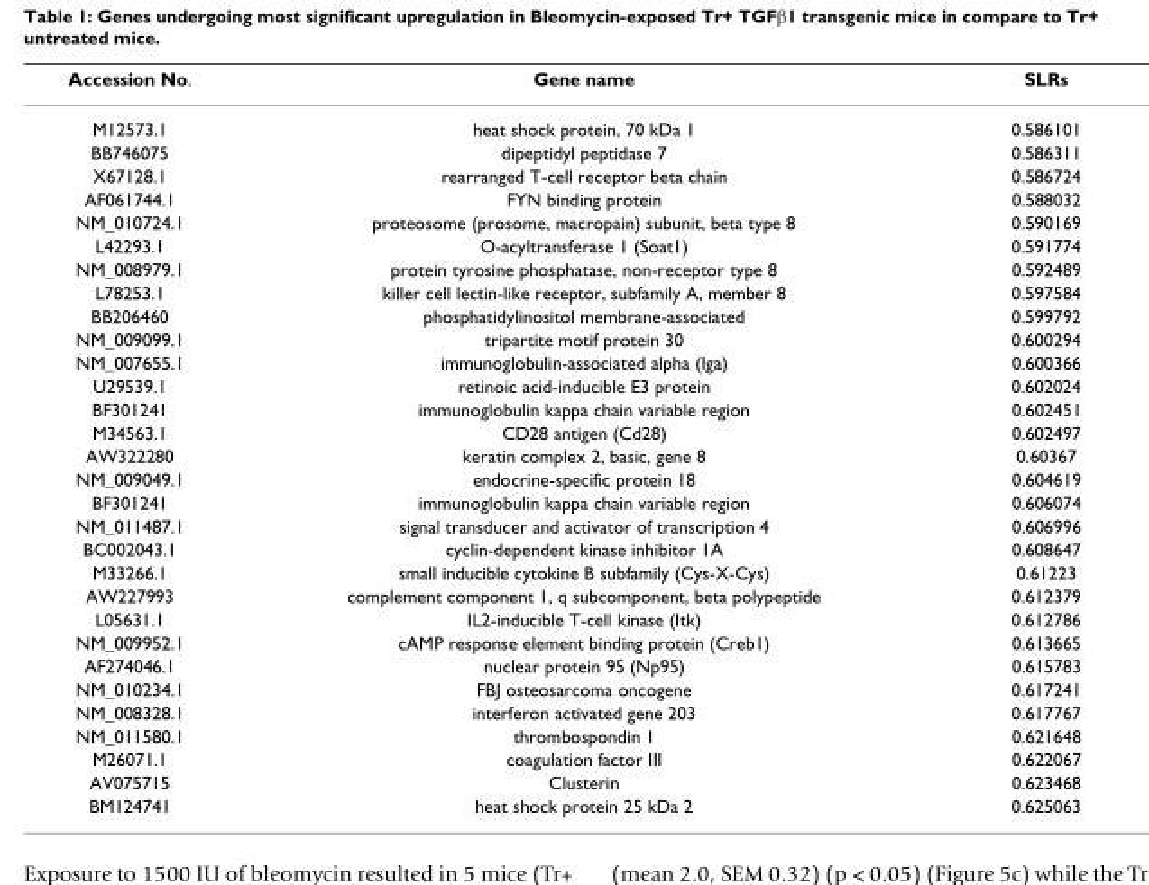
<table><thead><tr><td>Accession No.</td><td>Gene name</td><td>SLRs</td></tr></thead><tbody><tr><td>M12573.1</td><td>heat shock protein, 70 kDa 1</td><td>0.586101</td></tr><tr><td>BB746075</td><td>dipeptidyl peptidase 7</td><td>0.586311</td></tr><tr><td>X67128.1</td><td>rearranged T-cell receptor beta chain</td><td>0.586724</td></tr><tr><td>AF061744.1</td><td>FYN binding protein</td><td>0.588032</td></tr><tr><td>NM_010724.1</td><td>proteosome (prosome, macropain) subunit, beta type 8</td><td>0.590169</td></tr><tr><td>L42293.1</td><td>O-acyltransferase 1 (Soat1)</td><td>0.591774</td></tr><tr><td>NM_008979.1</td><td>protein tyrosine phosphatase, non-receptor type 8</td><td>0.592489</td></tr><tr><td>L78253.1</td><td>killer cell lectin-like receptor, subfamily A, member 8</td><td>0.597584</td></tr><tr><td>BB206460</td><td>phosphatidylinositol membrane-associated</td><td>0.599792</td></tr><tr><td>NM_009099.1</td><td>tripartite motif protein 30</td><td>0.600294</td></tr><tr><td>NM_007655.1</td><td>immunoglobulin-associated alpha (Iga)</td><td>0.600366</td></tr><tr><td>U29539.1</td><td>retinoic acid-inducible E3 protein</td><td>0.602024</td></tr><tr><td>BF301241</td><td>immunoglobulin kappa chain variable region</td><td>0.602451</td></tr><tr><td>M34563.1</td><td>CD28 antigen (Cd28)</td><td>0.602497</td></tr><tr><td>AW322280</td><td>keratin complex 2, basic, gene 8</td><td>0.60367</td></tr><tr><td>NM_009049.1</td><td>endocrine-specific protein 18</td><td>0.604619</td></tr><tr><td>BF301241</td><td>immunoglobulin kappa chain variable region</td><td>0.606074</td></tr><tr><td>NM_011487.1</td><td>signal transducer and activator of transcription 4</td><td>0.606996</td></tr><tr><td>BC002043.1</td><td>cyclin-dependent kinase inhibitor 1A</td><td>0.608647</td></tr><tr><td>M33266.1</td><td>small inducible cytokine B subfamily (Cys-X-Cys)</td><td>0.61223</td></tr><tr><td>AW227993</td><td>complement component 1, q subcomponent, beta polypeptide</td><td>0.612379</td></tr><tr><td>L05631.1</td><td>IL2-inducible T-cell kinase (Itk)</td><td>0.612786</td></tr><tr><td>NM_009952.1</td><td>cAMP response element binding protein (Creb1)</td><td>0.613665</td></tr><tr><td>AF274046.1</td><td>nuclear protein 95 (Np95)</td><td>0.615783</td></tr><tr><td>NM_010234.1</td><td>FBJ osteosarcoma oncogene</td><td>0.617241</td></tr><tr><td>NM_008328.1</td><td>interferon activated gene 203</td><td>0.617767</td></tr><tr><td>NM_011580.1</td><td>thrombospondin 1</td><td>0.621648</td></tr><tr><td>M26071.1</td><td>coagulation factor III</td><td>0.622067</td></tr><tr><td>AV075715</td><td>Clusterin</td><td>0.623468</td></tr><tr><td>BM124741</td><td>heat shock protein 25 kDa 2</td><td>0.625063</td></tr></tbody></table>